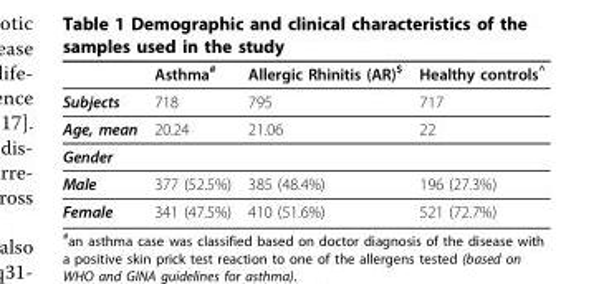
<table><thead><tr><td></td><td>Asthma<sup>#</sup></td><td>Allergic Rhinitis (AR)<sup>$</sup></td><td>Healthy controls<sup>^</sup></td></tr></thead><tbody><tr><td>Subjects</td><td>718</td><td>795</td><td>717</td></tr><tr><td>Age, mean</td><td>20.24</td><td>21.06</td><td>22</td></tr><tr><td colspan="4">Gender</td></tr><tr><td>Male</td><td>377 (52.5%)</td><td>385 (48.4%)</td><td>196 (27.3%)</td></tr><tr><td>Female</td><td>341 (47.5%)</td><td>410 (51.6%)</td><td>521 (72.7%)</td></tr></tbody></table>